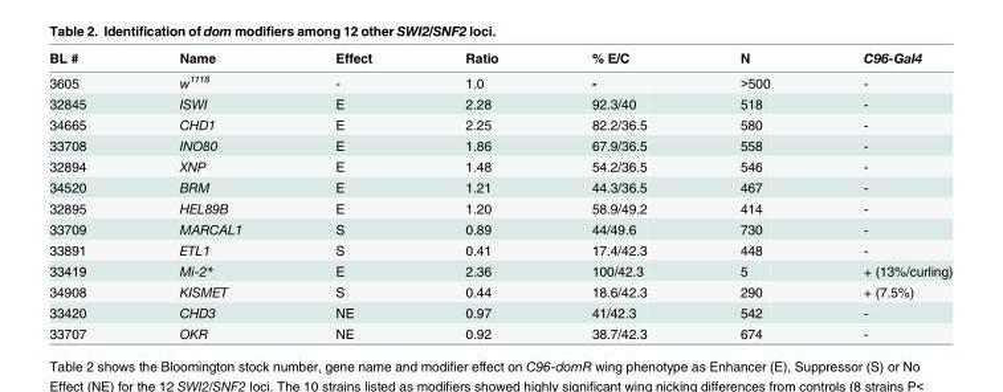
<table><thead><tr><td>BL #</td><td>Name</td><td>Effect</td><td>Ratio</td><td>% E/C</td><td>N</td><td>C96-Gal4</td></tr></thead><tbody><tr><td>3605</td><td>w<sup>1118</sup></td><td>-</td><td>1.0</td><td>-</td><td>&gt;500</td><td>-</td></tr><tr><td>32845</td><td>ISWI</td><td>E</td><td>2.28</td><td>92.3/40</td><td>518</td><td>-</td></tr><tr><td>34665</td><td>CHD1</td><td>E</td><td>2.25</td><td>82.2/36.5</td><td>580</td><td>-</td></tr><tr><td>33708</td><td>INO80</td><td>E</td><td>1.86</td><td>67.9/36.5</td><td>558</td><td>-</td></tr><tr><td>32894</td><td>XNP</td><td>E</td><td>1.48</td><td>54.2/36.5</td><td>546</td><td>-</td></tr><tr><td>34520</td><td>BRM</td><td>E</td><td>1.21</td><td>44.3/36.5</td><td>467</td><td>-</td></tr><tr><td>32895</td><td>HEL89B</td><td>E</td><td>1.20</td><td>58.9/49.2</td><td>414</td><td>-</td></tr><tr><td>33709</td><td>MARCAL1</td><td>S</td><td>0.89</td><td>44/49.6</td><td>730</td><td>-</td></tr><tr><td>33891</td><td>ETL1</td><td>S</td><td>0.41</td><td>17.4/42.3</td><td>448</td><td>-</td></tr><tr><td>33419</td><td>Mi-2*</td><td>E</td><td>2.36</td><td>100/42.3</td><td>5</td><td>+ (13%/curling)</td></tr><tr><td>34908</td><td>KISMET</td><td>S</td><td>0.44</td><td>18.6/42.3</td><td>290</td><td>+ (7.5%)</td></tr><tr><td>33420</td><td>CHD3</td><td>NE</td><td>0.97</td><td>41/42.3</td><td>542</td><td>-</td></tr><tr><td>33707</td><td>OKR</td><td>NE</td><td>0.92</td><td>38.7/42.3</td><td>674</td><td>-</td></tr></tbody></table>